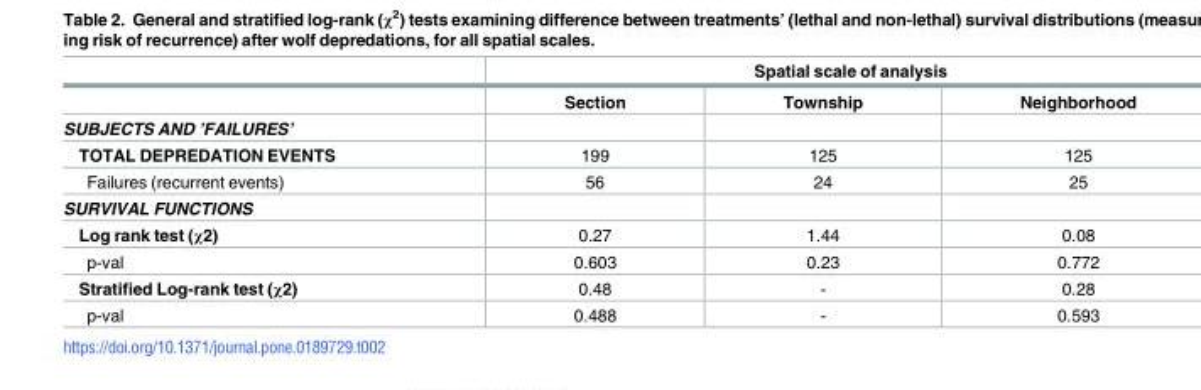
<table><thead><tr><td rowspan="2"></td><td colspan="3">Spatial scale of analysis</td></tr><tr><td>Section</td><td>Township</td><td>Neighborhood</td></tr></thead><tbody><tr><td colspan="4">SUBJECTS AND ’FAILURES’</td></tr><tr><td>TOTAL DEPREDATION EVENTS</td><td>199</td><td>125</td><td>125</td></tr><tr><td>Failures (recurrent events)</td><td>56</td><td>24</td><td>25</td></tr><tr><td colspan="4">SURVIVAL FUNCTIONS</td></tr><tr><td>Log rank test (χ2)</td><td>0.27</td><td>1.44</td><td>0.08</td></tr><tr><td>p-val</td><td>0.603</td><td>0.23</td><td>0.772</td></tr><tr><td>Stratified Log-rank test (χ2)</td><td>0.48</td><td>-</td><td>0.28</td></tr><tr><td>p-val</td><td>0.488</td><td>-</td><td>0.593</td></tr></tbody></table>